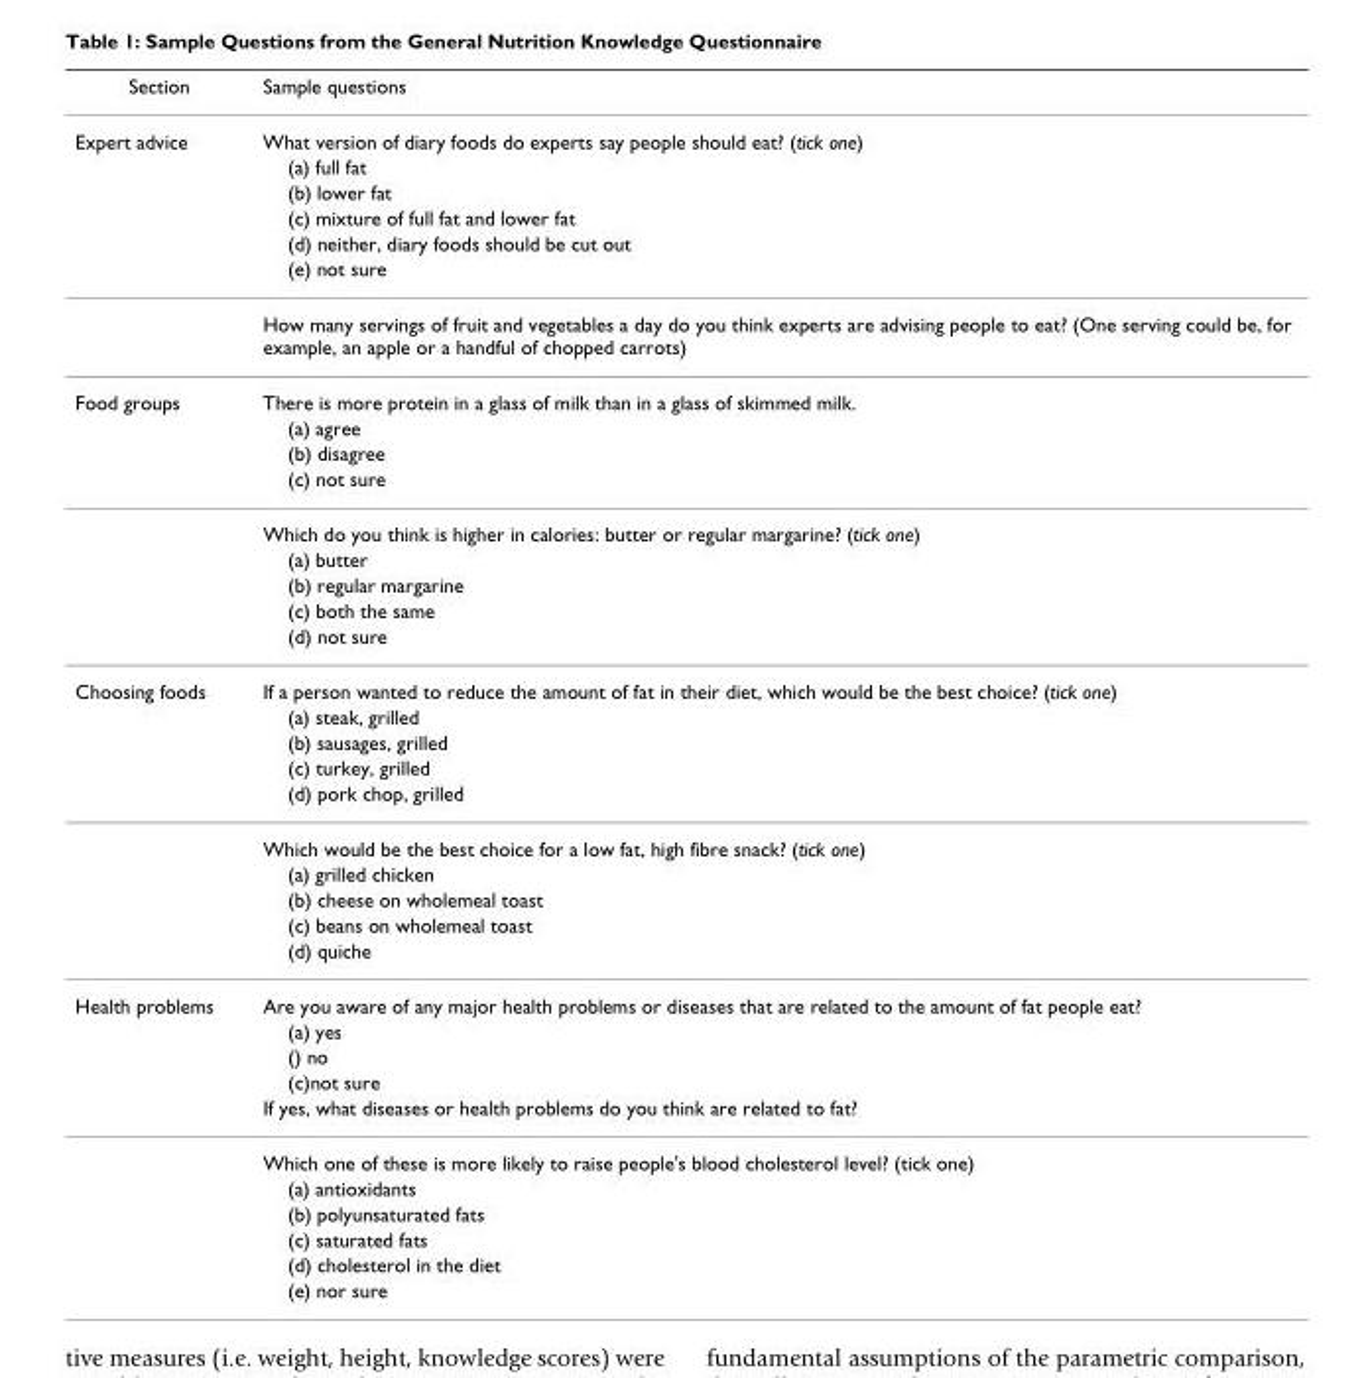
<table><thead><tr><td>Section</td><td>Sample questions</td></tr></thead><tbody><tr><td rowspan="7">Expert advice</td><td>What version of diary foods do experts say people should eat? (tick one)</td></tr><tr><td>(a) full fat</td></tr><tr><td>(b) lower fat</td></tr><tr><td>(c) mixture of full fat and lower fat</td></tr><tr><td>(d) neither, diary foods should be cut out</td></tr><tr><td>(e) not sure</td></tr><tr><td>How many servings of fruit and vegetables a day do you think experts are advising people to eat? (One serving could be, for example, an apple or a handful of chopped carrots)</td></tr><tr><td rowspan="9">Food groups</td><td>There is more protein in a glass of milk than in a glass of skimmed milk.</td></tr><tr><td>(a) agree</td></tr><tr><td>(b) disagree</td></tr><tr><td>(c) not sure</td></tr><tr><td>Which do you think is higher in calories: butter or regular margarine? (tick one)</td></tr><tr><td>(a) butter</td></tr><tr><td>(b) regular margarine</td></tr><tr><td>(c) both the same</td></tr><tr><td>(d) not sure</td></tr><tr><td rowspan="10">Choosing foods</td><td>If a person wanted to reduce the amount of fat in their diet, which would be the best choice? (tick one)</td></tr><tr><td>(a) steak, grilled</td></tr><tr><td>(b) sausages, grilled</td></tr><tr><td>(c) turkey, grilled</td></tr><tr><td>(d) pork chop, grilled</td></tr><tr><td>Which would be the best choice for a low fat, high fibre snack? (tick one)</td></tr><tr><td>(a) grilled chicken</td></tr><tr><td>(b) cheese on wholemeal toast</td></tr><tr><td>(c) beans on wholemeal toast</td></tr><tr><td>(d) quiche</td></tr><tr><td rowspan="11">Health problems</td><td>Are you aware of any major health problems or diseases that are related to the amount of fat people eat?</td></tr><tr><td>(a) yes</td></tr><tr><td>() no</td></tr><tr><td>(c)not sure</td></tr><tr><td>If yes, what diseases or health problems do you think are related to fat?</td></tr><tr><td>Which one of these is more likely to raise people&#x27;s blood cholesterol level? (tick one)</td></tr><tr><td>(a) antioxidants</td></tr><tr><td>(b) polyunsaturated fats</td></tr><tr><td>(c) saturated fats</td></tr><tr><td>(d) cholesterol in the diet</td></tr><tr><td>(e) nor sure</td></tr></tbody></table>